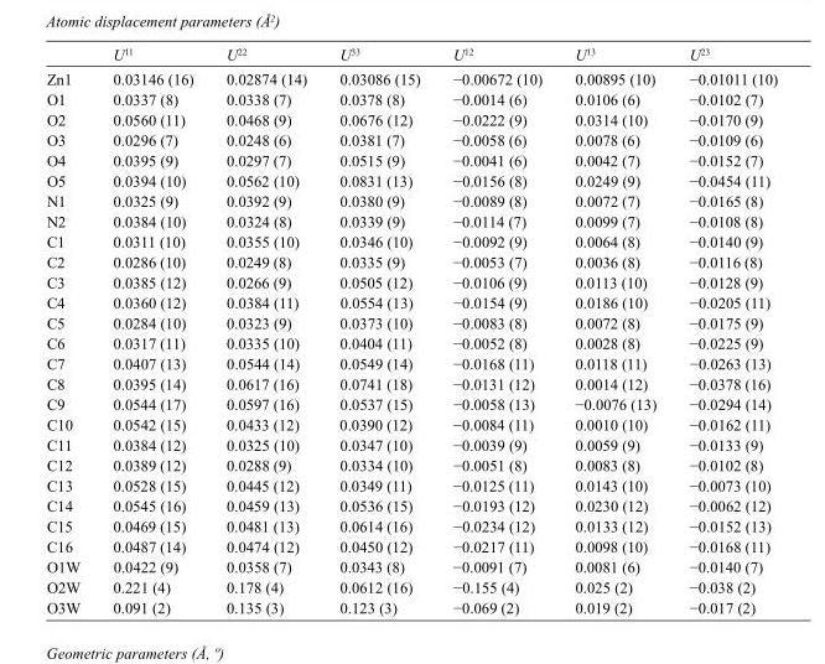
<table><thead><tr><td></td><td>U<sup>11</sup></td><td>U<sup>22</sup></td><td>U<sup>33</sup></td><td>U<sup>12</sup></td><td>U<sup>13</sup></td><td>U<sup>23</sup></td></tr></thead><tbody><tr><td>Zn1</td><td>0.03146 (16)</td><td>0.02874 (14)</td><td>0.03086 (15)</td><td>−0.00672 (10)</td><td>0.00895 (10)</td><td>−0.01011 (10)</td></tr><tr><td>O1</td><td>0.0337 (8)</td><td>0.0338 (7)</td><td>0.0378 (8)</td><td>−0.0014 (6)</td><td>0.0106 (6)</td><td>−0.0102 (7)</td></tr><tr><td>O2</td><td>0.0560 (11)</td><td>0.0468 (9)</td><td>0.0676 (12)</td><td>−0.0222 (9)</td><td>0.0314 (10)</td><td>−0.0170 (9)</td></tr><tr><td>O3</td><td>0.0296 (7)</td><td>0.0248 (6)</td><td>0.0381 (7)</td><td>−0.0058 (6)</td><td>0.0078 (6)</td><td>−0.0109 (6)</td></tr><tr><td>O4</td><td>0.0395 (9)</td><td>0.0297 (7)</td><td>0.0515 (9)</td><td>−0.0041 (6)</td><td>0.0042 (7)</td><td>−0.0152 (7)</td></tr><tr><td>O5</td><td>0.0394 (10)</td><td>0.0562 (10)</td><td>0.0831 (13)</td><td>−0.0156 (8)</td><td>0.0249 (9)</td><td>−0.0454 (11)</td></tr><tr><td>N1</td><td>0.0325 (9)</td><td>0.0392 (9)</td><td>0.0380 (9)</td><td>−0.0089 (8)</td><td>0.0072 (7)</td><td>−0.0165 (8)</td></tr><tr><td>N2</td><td>0.0384 (10)</td><td>0.0324 (8)</td><td>0.0339 (9)</td><td>−0.0114 (7)</td><td>0.0099 (7)</td><td>−0.0108 (8)</td></tr><tr><td>C1</td><td>0.0311 (10)</td><td>0.0355 (10)</td><td>0.0346 (10)</td><td>−0.0092 (9)</td><td>0.0064 (8)</td><td>−0.0140 (9)</td></tr><tr><td>C2</td><td>0.0286 (10)</td><td>0.0249 (8)</td><td>0.0335 (9)</td><td>−0.0053 (7)</td><td>0.0036 (8)</td><td>−0.0116 (8)</td></tr><tr><td>C3</td><td>0.0385 (12)</td><td>0.0266 (9)</td><td>0.0505 (12)</td><td>−0.0106 (9)</td><td>0.0113 (10)</td><td>−0.0128 (9)</td></tr><tr><td>C4</td><td>0.0360 (12)</td><td>0.0384 (11)</td><td>0.0554 (13)</td><td>−0.0154 (9)</td><td>0.0186 (10)</td><td>−0.0205 (11)</td></tr><tr><td>C5</td><td>0.0284 (10)</td><td>0.0323 (9)</td><td>0.0373 (10)</td><td>−0.0083 (8)</td><td>0.0072 (8)</td><td>−0.0175 (9)</td></tr><tr><td>C6</td><td>0.0317 (11)</td><td>0.0335 (10)</td><td>0.0404 (11)</td><td>−0.0052 (8)</td><td>0.0028 (8)</td><td>−0.0225 (9)</td></tr><tr><td>C7</td><td>0.0407 (13)</td><td>0.0544 (14)</td><td>0.0549 (14)</td><td>−0.0168 (11)</td><td>0.0118 (11)</td><td>−0.0263 (13)</td></tr><tr><td>C8</td><td>0.0395 (14)</td><td>0.0617 (16)</td><td>0.0741 (18)</td><td>−0.0131 (12)</td><td>0.0014 (12)</td><td>−0.0378 (16)</td></tr><tr><td>C9</td><td>0.0544 (17)</td><td>0.0597 (16)</td><td>0.0537 (15)</td><td>−0.0058 (13)</td><td>−0.0076 (13)</td><td>−0.0294 (14)</td></tr><tr><td>C10</td><td>0.0542 (15)</td><td>0.0433 (12)</td><td>0.0390 (12)</td><td>−0.0084 (11)</td><td>0.0010 (10)</td><td>−0.0162 (11)</td></tr><tr><td>C11</td><td>0.0384 (12)</td><td>0.0325 (10)</td><td>0.0347 (10)</td><td>−0.0039 (9)</td><td>0.0059 (9)</td><td>−0.0133 (9)</td></tr><tr><td>C12</td><td>0.0389 (12)</td><td>0.0288 (9)</td><td>0.0334 (10)</td><td>−0.0051 (8)</td><td>0.0083 (8)</td><td>−0.0102 (8)</td></tr><tr><td>C13</td><td>0.0528 (15)</td><td>0.0445 (12)</td><td>0.0349 (11)</td><td>−0.0125 (11)</td><td>0.0143 (10)</td><td>−0.0073 (10)</td></tr><tr><td>C14</td><td>0.0545 (16)</td><td>0.0459 (13)</td><td>0.0536 (15)</td><td>−0.0193 (12)</td><td>0.0230 (12)</td><td>−0.0062 (12)</td></tr><tr><td>C15</td><td>0.0469 (15)</td><td>0.0481 (13)</td><td>0.0614 (16)</td><td>−0.0234 (12)</td><td>0.0133 (12)</td><td>−0.0152 (13)</td></tr><tr><td>C16</td><td>0.0487 (14)</td><td>0.0474 (12)</td><td>0.0450 (12)</td><td>−0.0217 (11)</td><td>0.0098 (10)</td><td>−0.0168 (11)</td></tr><tr><td>O1W</td><td>0.0422 (9)</td><td>0.0358 (7)</td><td>0.0343 (8)</td><td>−0.0091 (7)</td><td>0.0081 (6)</td><td>−0.0140 (7)</td></tr><tr><td>O2W</td><td>0.221 (4)</td><td>0.178 (4)</td><td>0.0612 (16)</td><td>−0.155 (4)</td><td>0.025 (2)</td><td>−0.038 (2)</td></tr><tr><td>O3W</td><td>0.091 (2)</td><td>0.135 (3)</td><td>0.123 (3)</td><td>−0.069 (2)</td><td>0.019 (2)</td><td>−0.017 (2)</td></tr></tbody></table>